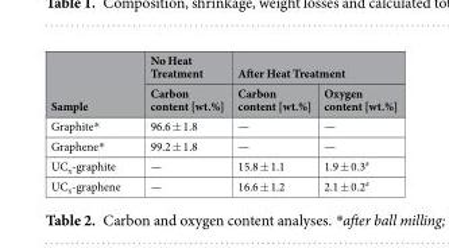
<table><thead><tr><td rowspan="2">Sample</td><td rowspan="2">No Heat Treatment Carbon content [wt.%]</td><td colspan="2">After Heat Treatment</td></tr><tr><td>Carbon content [wt.%]</td><td>Oxygen content [wt.%]</td></tr></thead><tbody><tr><td>Graphite*</td><td>96.6 ± 1.8</td><td>—</td><td>—</td></tr><tr><td>Graphene*</td><td>99.2 ± 1.8</td><td>—</td><td>—</td></tr><tr><td>UC<sub>x</sub>-graphite</td><td>—</td><td>15.8 ± 1.1</td><td>1.9 ± 0.3<sup>#</sup></td></tr><tr><td>UC<sub>x</sub>-graphene</td><td>—</td><td>16.6 ± 1.2</td><td>2.1 ± 0.2<sup>#</sup></td></tr></tbody></table>